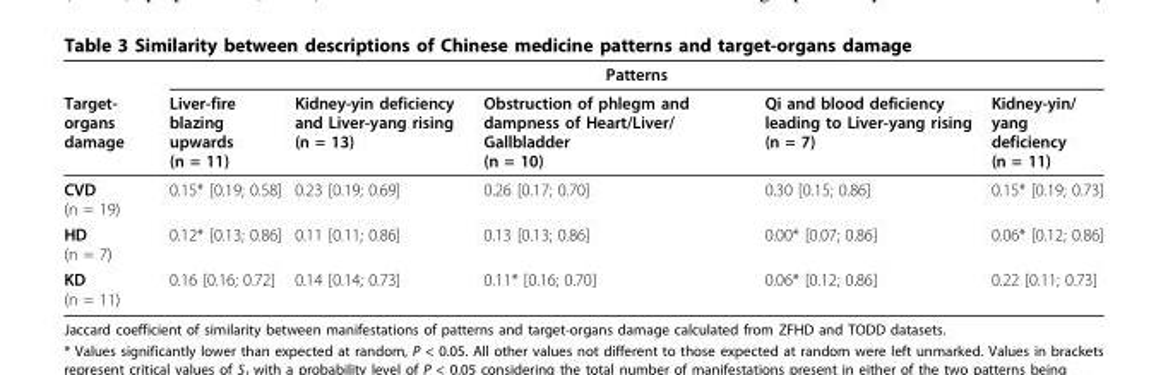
<table><thead><tr><td rowspan="2">Target- organs damage</td><td colspan="5">Patterns</td></tr><tr><td>Liver-fire blazing upwards (n = 11)</td><td>Kidney-yin deficiency and Liver-yang rising (n = 13)</td><td>Obstruction of phlegm and dampness of Heart/Liver/ Gallbladder (n = 10)</td><td>Qi and blood deficiency leading to Liver-yang rising (n = 7)</td><td>Kidney-yin/ yang deficiency (n = 11)</td></tr></thead><tbody><tr><td>CVD (n = 19)</td><td>0.15* [0.19; 0.58]</td><td>0.23 [0.19; 0.69]</td><td>0.26 [0.17; 0.70]</td><td>0.30 [0.15; 0.86]</td><td>0.15* [0.19; 0.73]</td></tr><tr><td>HD (n = 7)</td><td>0.12* [0.13; 0.86]</td><td>0.11 [0.11; 0.86]</td><td>0.13 [0.13; 0.86]</td><td>0.00* [0.07; 0.86]</td><td>0.06* [0.12; 0.86]</td></tr><tr><td>KD (n = 11)</td><td>0.16 [0.16; 0.72]</td><td>0.14 [0.14; 0.73]</td><td>0.11* [0.16; 0.70]</td><td>0.06* [0.12; 0.86]</td><td>0.22 [0.11; 0.73]</td></tr></tbody></table>